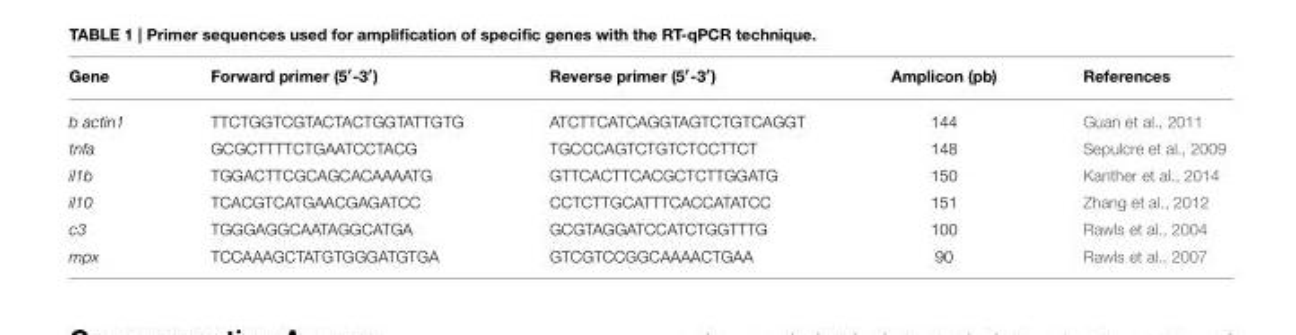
<table><thead><tr><td>Gene</td><td>Forward primer (5′-3′)</td><td>Reverse primer (5′-3′)</td><td>Amplicon (pb)</td><td>References</td></tr></thead><tbody><tr><td>b actin1</td><td>TTCTGGTCGTACTACTGGTATTGTG</td><td>ATCTTCATCAGGTAGTCTGTCAGGT</td><td>144</td><td>Guan et al., 2011</td></tr><tr><td>tnfa</td><td>GCGCTTTTCTGAATCCTACG</td><td>TGCCCAGTCTGTCTCCTTCT</td><td>148</td><td>Sepulcre et al., 2009</td></tr><tr><td>il1b</td><td>TGGACTTCGCAGCACAAAATG</td><td>GTTCACTTCACGCTCTTGGATG</td><td>150</td><td>Kanther et al., 2014</td></tr><tr><td>il10</td><td>TCACGTCATGAACGAGATCC</td><td>CCTCTTGCATTTCACCATATCC</td><td>151</td><td>Zhang et al., 2012</td></tr><tr><td>c3</td><td>TGGGAGGCAATAGGCATGA</td><td>GCGTAGGATCCATCTGGTTTG</td><td>100</td><td>Rawls et al., 2004</td></tr><tr><td>mpx</td><td>TCCAAAGCTATGTGGGATGTGA</td><td>GTCGTCCGGCAAAACTGAA</td><td>90</td><td>Rawls et al., 2007</td></tr></tbody></table>